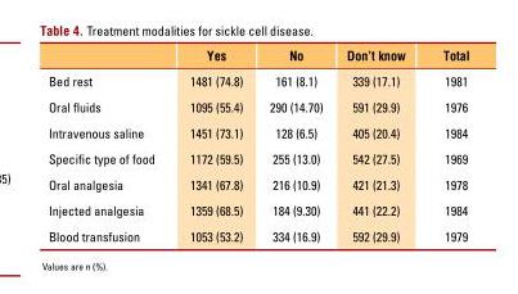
<table><thead><tr><td></td><td>Yes</td><td>No</td><td>Don’t know</td><td>Total</td></tr></thead><tbody><tr><td>Bed rest</td><td>1481 (74.8)</td><td>161 (8.1)</td><td>339 (17.1)</td><td>1981</td></tr><tr><td>Oral fluids</td><td>1095 (55.4)</td><td>290 (14.70)</td><td>591 (29.9)</td><td>1976</td></tr><tr><td>Intravenous saline</td><td>1451 (73.1)</td><td>128 (6.5)</td><td>405 (20.4)</td><td>1984</td></tr><tr><td>Specific type of food</td><td>1172 (59.5)</td><td>255 (13.0)</td><td>542 (27.5)</td><td>1969</td></tr><tr><td>Oral analgesia</td><td>1341 (67.8)</td><td>216 (10.9)</td><td>421 (21.3)</td><td>1978</td></tr><tr><td>Injected analgesia</td><td>1359 (68.5)</td><td>184 (9.30)</td><td>441 (22.2)</td><td>1984</td></tr><tr><td>Blood transfusion</td><td>1053 (53.2)</td><td>334 (16.9)</td><td>592 (29.9)</td><td>1979</td></tr></tbody></table>